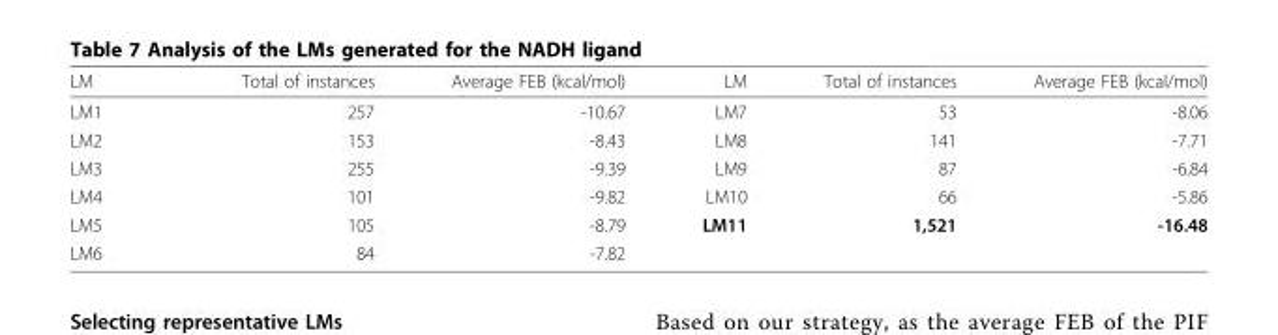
<table><thead><tr><td>LM</td><td>Total of instances</td><td>Average FEB (kcal/mol)</td><td>LM</td><td>Total of instances</td><td>Average FEB (kcal/mol)</td></tr></thead><tbody><tr><td>LM1</td><td>257</td><td>-10.67</td><td>LM7</td><td>53</td><td>-8.06</td></tr><tr><td>LM2</td><td>153</td><td>-8.43</td><td>LM8</td><td>141</td><td>-7.71</td></tr><tr><td>LM3</td><td>255</td><td>-9.39</td><td>LM9</td><td>87</td><td>-6.84</td></tr><tr><td>LM4</td><td>101</td><td>-9.82</td><td>LM10</td><td>66</td><td>-5.86</td></tr><tr><td>LM5</td><td>105</td><td>-8.79</td><td>LM11</td><td>1,521</td><td>-16.48</td></tr><tr><td>LM6</td><td>84</td><td>-7.82</td><td></td><td></td><td></td></tr></tbody></table>